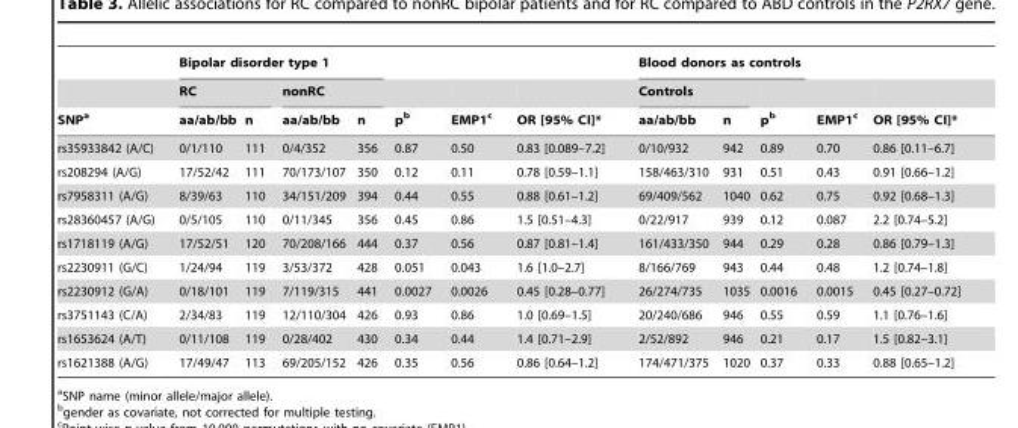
<table><thead><tr><td rowspan="3">SNP<sup>a</sup></td><td colspan="4">Bipolar disorder type 1</td><td rowspan="3">p<sup>b</sup></td><td rowspan="3">EMP1<sup>c</sup></td><td rowspan="3">OR [95% CI]*</td><td colspan="3">Blood donors as controls</td><td rowspan="3">EMP1<sup>c</sup></td><td rowspan="3">OR [95% CI]*</td></tr><tr><td colspan="2">RC</td><td colspan="2">nonRC</td><td colspan="2">Controls</td><td rowspan="2">p<sup>b</sup></td></tr><tr><td>aa/ab/bb</td><td>n</td><td>aa/ab/bb</td><td>n</td><td>aa/ab/bb</td><td>n</td></tr></thead><tbody><tr><td>rs35933842 (A/C)</td><td>0/1/110</td><td>111</td><td>0/4/352</td><td>356</td><td>0.87</td><td>0.50</td><td>0.83 [0.089–7.2]</td><td>0/10/932</td><td>942</td><td>0.89</td><td>0.70</td><td>0.86 [0.11–6.7]</td></tr><tr><td>rs208294 (A/G)</td><td>17/52/42</td><td>111</td><td>70/173/107</td><td>350</td><td>0.12</td><td>0.11</td><td>0.78 [0.59–1.1]</td><td>158/463/310</td><td>931</td><td>0.51</td><td>0.43</td><td>0.91 [0.66–1.2]</td></tr><tr><td>rs7958311 (A/G)</td><td>8/39/63</td><td>110</td><td>34/151/209</td><td>394</td><td>0.44</td><td>0.55</td><td>0.88 [0.61–1.2]</td><td>69/409/562</td><td>1040</td><td>0.62</td><td>0.75</td><td>0.92 [0.68–1.3]</td></tr><tr><td>rs28360457 (A/G)</td><td>0/5/105</td><td>110</td><td>0/11/345</td><td>356</td><td>0.45</td><td>0.86</td><td>1.5 [0.51–4.3]</td><td>0/22/917</td><td>939</td><td>0.12</td><td>0.087</td><td>2.2 [0.74–5.2]</td></tr><tr><td>rs1718119 (A/G)</td><td>17/52/51</td><td>120</td><td>70/208/166</td><td>444</td><td>0.37</td><td>0.56</td><td>0.87 [0.81–1.4]</td><td>161/433/350</td><td>944</td><td>0.29</td><td>0.28</td><td>0.86 [0.79–1.3]</td></tr><tr><td>rs2230911 (G/C)</td><td>1/24/94</td><td>119</td><td>3/53/372</td><td>428</td><td>0.051</td><td>0.043</td><td>1.6 [1.0–2.7]</td><td>8/166/769</td><td>943</td><td>0.44</td><td>0.48</td><td>1.2 [0.74–1.8]</td></tr><tr><td>rs2230912 (G/A)</td><td>0/18/101</td><td>119</td><td>7/119/315</td><td>441</td><td>0.0027</td><td>0.0026</td><td>0.45 [0.28–0.77]</td><td>26/274/735</td><td>1035</td><td>0.0016</td><td>0.0015</td><td>0.45 [0.27–0.72]</td></tr><tr><td>rs3751143 (C/A)</td><td>2/34/83</td><td>119</td><td>12/110/304</td><td>426</td><td>0.93</td><td>0.86</td><td>1.0 [0.69–1.5]</td><td>20/240/686</td><td>946</td><td>0.55</td><td>0.59</td><td>1.1 [0.76–1.6]</td></tr><tr><td>rs1653624 (A/T)</td><td>0/11/108</td><td>119</td><td>0/28/402</td><td>430</td><td>0.34</td><td>0.44</td><td>1.4 [0.71–2.9]</td><td>2/52/892</td><td>946</td><td>0.21</td><td>0.17</td><td>1.5 [0.82–3.1]</td></tr><tr><td>rs1621388 (A/G)</td><td>17/49/47</td><td>113</td><td>69/205/152</td><td>426</td><td>0.35</td><td>0.56</td><td>0.86 [0.64–1.2]</td><td>174/471/375</td><td>1020</td><td>0.37</td><td>0.33</td><td>0.88 [0.65–1.2]</td></tr></tbody></table>